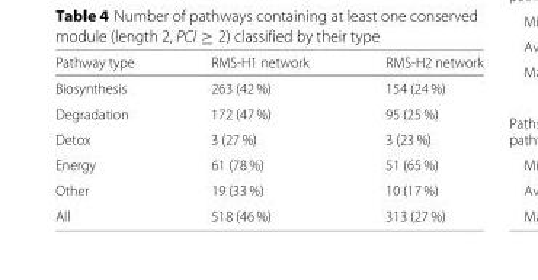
<table><thead><tr><td>Pathway type</td><td>RMS-H1 network</td><td>RMS-H2 network</td></tr></thead><tbody><tr><td>Biosynthesis</td><td>263 (42 %)</td><td>154 (24 %)</td></tr><tr><td>Degradation</td><td>172 (47 %)</td><td>95 (25 %)</td></tr><tr><td>Detox</td><td>3 (27 %)</td><td>3 (23 %)</td></tr><tr><td>Energy</td><td>61 (78 %)</td><td>51 (65 %)</td></tr><tr><td>Other</td><td>19 (33 %)</td><td>10 (17 %)</td></tr><tr><td>All</td><td>518 (46 %)</td><td>313 (27 %)</td></tr></tbody></table>